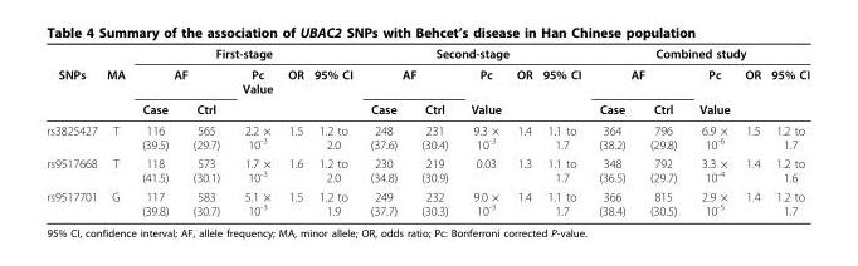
<table><thead><tr><td rowspan="3">SNPs</td><td rowspan="3">MA</td><td colspan="5">First-stage</td><td colspan="5">Second-stage</td><td colspan="5">Combined study</td></tr><tr><td colspan="2">AF</td><td rowspan="2">Pc Value</td><td rowspan="2">OR</td><td rowspan="2">95% CI</td><td colspan="2">AF</td><td rowspan="2">Pc Value</td><td rowspan="2">OR</td><td rowspan="2">95% CI</td><td colspan="2">AF</td><td rowspan="2">Pc Value</td><td rowspan="2">OR</td><td rowspan="2">95% CI</td></tr><tr><td>Case</td><td>Ctrl</td><td>Case</td><td>Ctrl</td><td>Case</td><td>Ctrl</td></tr></thead><tbody><tr><td>rs3825427</td><td>T</td><td>116 (39.5)</td><td>565 (29.7)</td><td>2.2 × 10<sup>-3</sup></td><td>1.5</td><td>1.2 to 2.0</td><td>248 (37.6)</td><td>231 (30.4)</td><td>9.3 × 10<sup>-3</sup></td><td>1.4</td><td>1.1 to 1.7</td><td>364 (38.2)</td><td>796 (29.8)</td><td>6.9 × 10<sup>-6</sup></td><td>1.5</td><td>1.2 to 1.7</td></tr><tr><td>rs9517668</td><td>T</td><td>118 (41.5)</td><td>573 (30.1)</td><td>1.7 × 10<sup>-3</sup></td><td>1.6</td><td>1.2 to 2.0</td><td>230 (34.8)</td><td>219 (30.9)</td><td>0.03</td><td>1.3</td><td>1.1 to 1.7</td><td>348 (36.5)</td><td>792 (29.7)</td><td>3.3 × 10<sup>-4</sup></td><td>1.4</td><td>1.2 to 1.6</td></tr><tr><td>rs9517701</td><td>G</td><td>117 (39.8)</td><td>583 (30.7)</td><td>5.1 × 10<sup>-3</sup></td><td>1.5</td><td>1.2 to 1.9</td><td>249 (37.7)</td><td>232 (30.3)</td><td>9.0 × 10<sup>-3</sup></td><td>1.4</td><td>1.1 to 1.7</td><td>366 (38.4)</td><td>815 (30.5)</td><td>2.9 × 10<sup>-5</sup></td><td>1.4</td><td>1.2 to 1.7</td></tr></tbody></table>